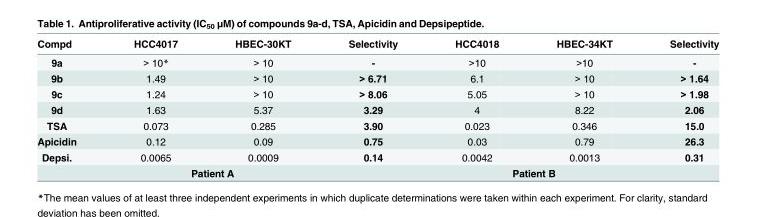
<table><thead><tr><td>Compd</td><td>HCC4017</td><td>HBEC-30KT</td><td>Selectivity</td><td>HCC4018</td><td>HBEC-34KT</td><td>Selectivity</td></tr></thead><tbody><tr><td>9a</td><td>&gt; 10*</td><td>&gt; 10</td><td>-</td><td>&gt;10</td><td>&gt;10</td><td>-</td></tr><tr><td>9b</td><td>1.49</td><td>&gt; 10</td><td>&gt; 6.71</td><td>6.1</td><td>&gt; 10</td><td>&gt; 1.64</td></tr><tr><td>9c</td><td>1.24</td><td>&gt; 10</td><td>&gt; 8.06</td><td>5.05</td><td>&gt; 10</td><td>&gt; 1.98</td></tr><tr><td>9d</td><td>1.63</td><td>5.37</td><td>3.29</td><td>4</td><td>8.22</td><td>2.06</td></tr><tr><td>TSA</td><td>0.073</td><td>0.285</td><td>3.90</td><td>0.023</td><td>0.346</td><td>15.0</td></tr><tr><td>Apicidin</td><td>0.12</td><td>0.09</td><td>0.75</td><td>0.03</td><td>0.79</td><td>26.3</td></tr><tr><td rowspan="2">Depsi.</td><td>0.0065</td><td>0.0009</td><td>0.14</td><td>0.0042</td><td>0.0013</td><td>0.31</td></tr><tr><td colspan="2">Patient A</td><td></td><td colspan="2">Patient B</td><td></td></tr></tbody></table>